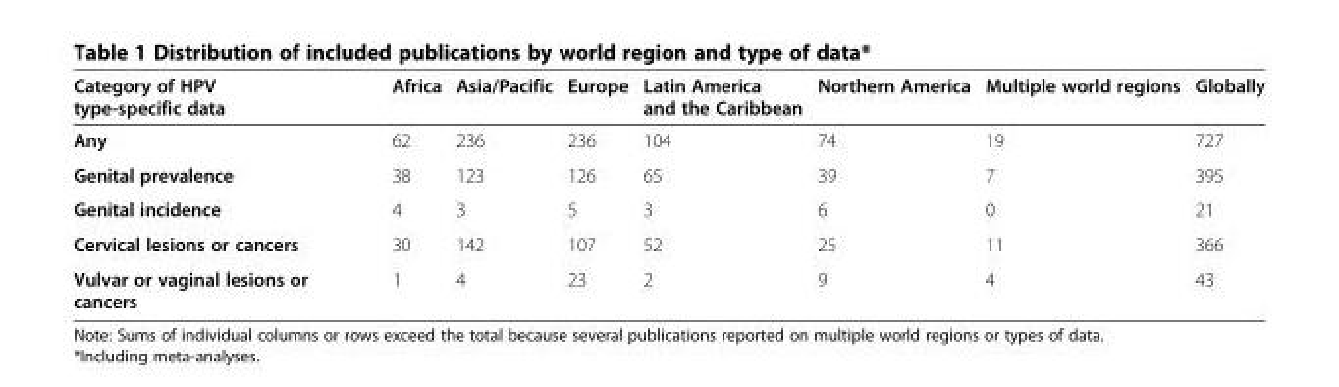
<table><thead><tr><td>Category of HPV type-specific data</td><td>Africa</td><td>Asia/Pacific</td><td>Europe</td><td>Latin America and the Caribbean</td><td>Northern America</td><td>Multiple world regions</td><td>Globally</td></tr></thead><tbody><tr><td>Any</td><td>62</td><td>236</td><td>236</td><td>104</td><td>74</td><td>19</td><td>727</td></tr><tr><td>Genital prevalence</td><td>38</td><td>123</td><td>126</td><td>65</td><td>39</td><td>7</td><td>395</td></tr><tr><td>Genital incidence</td><td>4</td><td>3</td><td>5</td><td>3</td><td>6</td><td>0</td><td>21</td></tr><tr><td>Cervical lesions or cancers</td><td>30</td><td>142</td><td>107</td><td>52</td><td>25</td><td>11</td><td>366</td></tr><tr><td>Vulvar or vaginal lesions or cancers</td><td>1</td><td>4</td><td>23</td><td>2</td><td>9</td><td>4</td><td>43</td></tr></tbody></table>